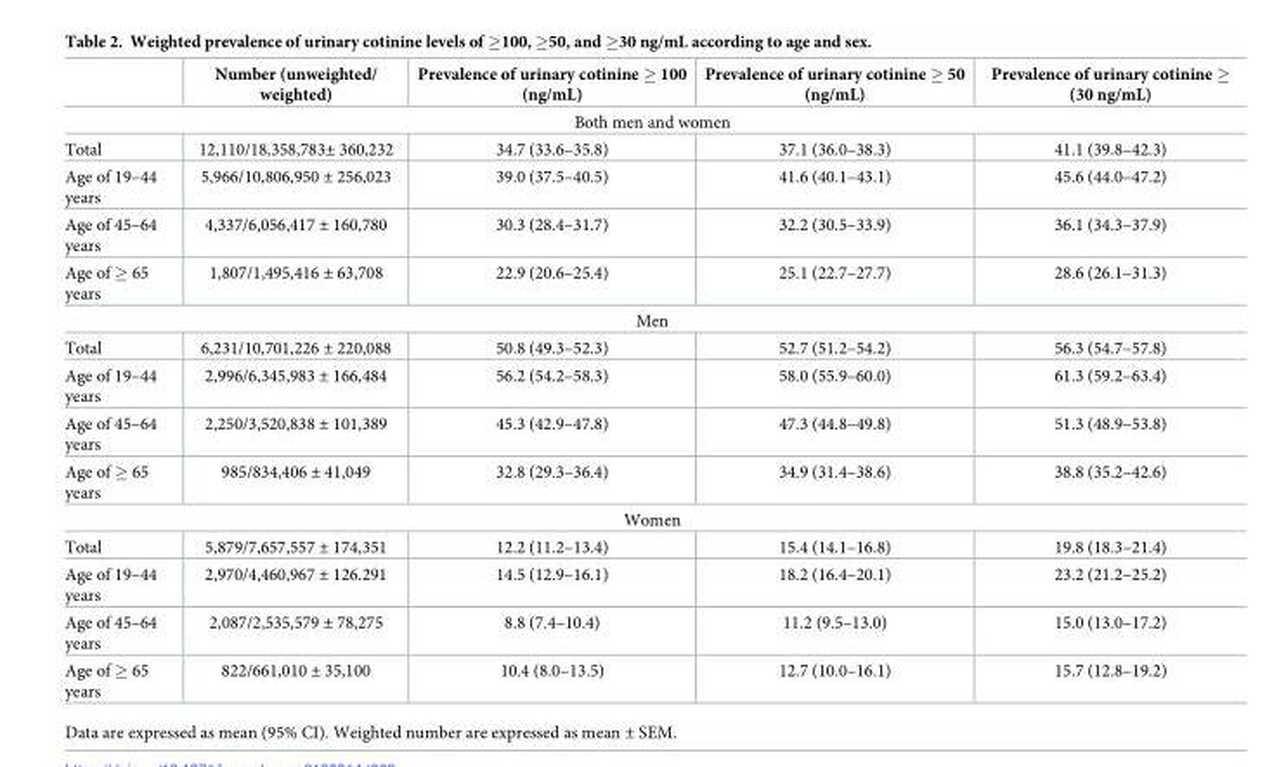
<table><thead><tr><td></td><td>Number (unweighted/ weighted)</td><td>Prevalence of urinary cotinine ≥ 100 (ng/mL)</td><td>Prevalence of urinary cotinine ≥ 50 (ng/mL)</td><td>Prevalence of urinary cotinine (30 ng/mL)</td></tr></thead><tbody><tr><td colspan="5">Both men and women</td></tr><tr><td>Total</td><td>12,110/18,358,783± 360,232</td><td>34.7 (33.6–35.8)</td><td>37.1 (36.0–38.3)</td><td>41.1 (39.8–42.3)</td></tr><tr><td>Age of 19–44 years</td><td>5,966/10,806,950 ± 256,023</td><td>39.0 (37.5–40.5)</td><td>41.6 (40.1–43.1)</td><td>45.6 (44.0–47.2)</td></tr><tr><td>Age of 45–64 years</td><td>4,337/6,056,417 ± 160,780</td><td>30.3 (28.4–31.7)</td><td>32.2 (30.5–33.9)</td><td>36.1 (34.3–37.9)</td></tr><tr><td>Age of ≥ 65 years</td><td>1,807/1,495,416 ± 63,708</td><td>22.9 (20.6–25.4)</td><td>25.1 (22.7–27.7)</td><td>28.6 (26.1–31.3)</td></tr><tr><td colspan="5">Men</td></tr><tr><td>Total</td><td>6,231/10,701,226 ± 220,088</td><td>50.8 (49.3–52.3)</td><td>52.7 (51.2–54.2)</td><td>56.3 (54.7–57.8)</td></tr><tr><td>Age of 19–44 years</td><td>2,996/6,345,983 ± 166,484</td><td>56.2 (54.2–58.3)</td><td>58.0 (55.9–60.0)</td><td>61.3 (59.2–63.4)</td></tr><tr><td>Age of 45–64 years</td><td>2,250/3,520,838 ± 101,389</td><td>45.3 (42.9–47.8)</td><td>47.3 (44.8–49.8)</td><td>51.3 (48.9–53.8)</td></tr><tr><td>Age of ≥ 65 years</td><td>985/834,406 ± 41,049</td><td>32.8 (29.3–36.4)</td><td>34.9 (31.4–38.6)</td><td>38.8 (35.2–42.6)</td></tr><tr><td colspan="5">Women</td></tr><tr><td>Total</td><td>5,879/7,657,557 ± 174,351</td><td>12.2 (11.2–13.4)</td><td>15.4 (14.1–16.8)</td><td>19.8 (18.3–21.4)</td></tr><tr><td>Age of 19–44 years</td><td>2,970/4,460,967 ± 126.291</td><td>14.5 (12.9–16.1)</td><td>18.2 (16.4–20.1)</td><td>23.2 (21.2–25.2)</td></tr><tr><td>Age of 45–64 years</td><td>2,087/2,535,579 ± 78,275</td><td>8.8 (7.4–10.4)</td><td>11.2 (9.5–13.0)</td><td>15.0 (13.0–17.2)</td></tr><tr><td>Age of ≥ 65 years</td><td>822/661,010 ± 35,100</td><td>10.4 (8.0–13.5)</td><td>12.7 (10.0–16.1)</td><td>15.7 (12.8–19.2)</td></tr></tbody></table>